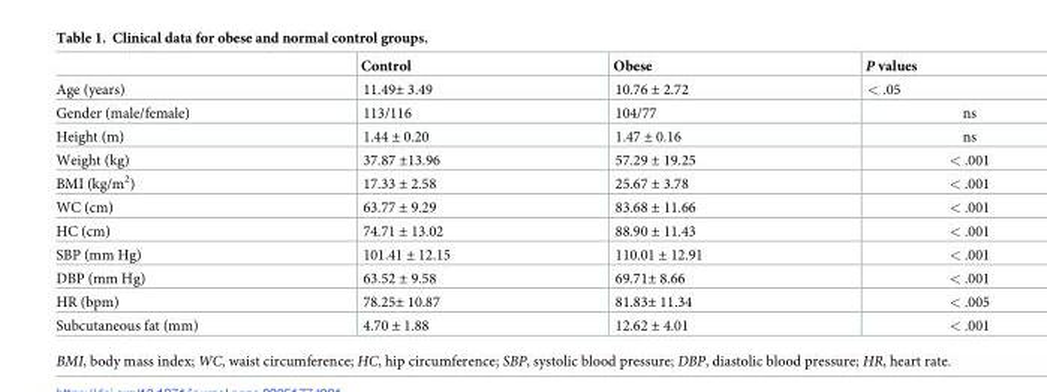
<table><thead><tr><td></td><td>Control</td><td>Obese</td><td>P values</td></tr></thead><tbody><tr><td>Age (years)</td><td>11.49± 3.49</td><td>10.76 ± 2.72</td><td>&lt; .05</td></tr><tr><td>Gender (male/female)</td><td>113/116</td><td>104/77</td><td>ns</td></tr><tr><td>Height (m)</td><td>1.44 ± 0.20</td><td>1.47 ± 0.16</td><td>ns</td></tr><tr><td>Weight (kg)</td><td>37.87 ±13.96</td><td>57.29 ± 19.25</td><td>&lt; .001</td></tr><tr><td>BMI (kg/m<sup>2</sup>)</td><td>17.33 ± 2.58</td><td>25.67 ± 3.78</td><td>&lt; .001</td></tr><tr><td>WC (cm)</td><td>63.77 ± 9.29</td><td>83.68 ± 11.66</td><td>&lt; .001</td></tr><tr><td>HC (cm)</td><td>74.71 ± 13.02</td><td>88.90 ± 11.43</td><td>&lt; .001</td></tr><tr><td>SBP (mm Hg)</td><td>101.41 ± 12.15</td><td>110.01 ± 12.91</td><td>&lt; .001</td></tr><tr><td>DBP (mm Hg)</td><td>63.52 ± 9.58</td><td>69.71± 8.66</td><td>&lt; .001</td></tr><tr><td>HR (bpm)</td><td>78.25± 10.87</td><td>81.83± 11.34</td><td>&lt; .005</td></tr><tr><td>Subcutaneous fat (mm)</td><td>4.70 ± 1.88</td><td>12.62 ± 4.01</td><td>&lt; .001</td></tr></tbody></table>